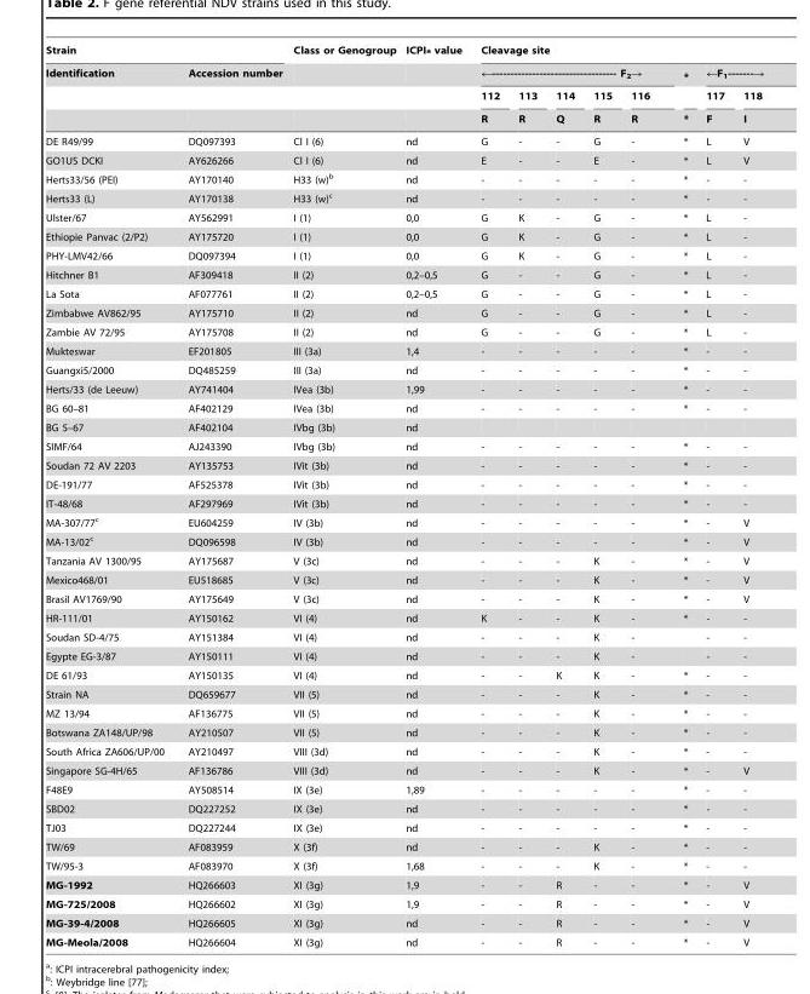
<table><thead><tr><td colspan="2">Strain</td><td rowspan="4">Class or Genogroup</td><td rowspan="4">ICPI<sup>a</sup> value</td><td colspan="8">Cleavage site</td></tr><tr><td rowspan="3">Identification</td><td rowspan="3">Accession number</td><td colspan="5">←---------------------------------- F<sub>2</sub>→</td><td rowspan="3">* *</td><td colspan="2">←F<sub>1</sub>-------→</td></tr><tr><td rowspan="2">112 R</td><td rowspan="2">113 R</td><td rowspan="2">114 Q</td><td rowspan="2">115 R</td><td rowspan="2">116 R</td><td rowspan="2">117 F</td><td rowspan="2">118 I</td></tr><tr></tr></thead><tbody><tr><td>DE R49/99</td><td>DQ097393</td><td>Cl I (6)</td><td>nd</td><td>G</td><td>-</td><td>-</td><td>G</td><td>-</td><td>*</td><td>L</td><td>V</td></tr><tr><td>GO1US DCKI</td><td>AY626266</td><td>Cl I (6)</td><td>nd</td><td>E</td><td>-</td><td>-</td><td>E</td><td>-</td><td>*</td><td>L</td><td>V</td></tr><tr><td>Herts33/56 (PEI)</td><td>AY170140</td><td>H33 (w)<sup>b</sup></td><td>nd</td><td>-</td><td>-</td><td>-</td><td>-</td><td>-</td><td>*</td><td>-</td><td>-</td></tr><tr><td>Herts33 (L)</td><td>AY170138</td><td>H33 (w)<sup>c</sup></td><td>nd</td><td>-</td><td>-</td><td>-</td><td>-</td><td>-</td><td>*</td><td>-</td><td>-</td></tr><tr><td>Ulster/67</td><td>AY562991</td><td>I (1)</td><td>0,0</td><td>G</td><td>K</td><td>-</td><td>G</td><td>-</td><td>*</td><td>L</td><td>-</td></tr><tr><td>Ethiopie Panvac (2/P2)</td><td>AY175720</td><td>I (1)</td><td>0,0</td><td>G</td><td>K</td><td>-</td><td>G</td><td>-</td><td>*</td><td>L</td><td>-</td></tr><tr><td>PHY-LMV42/66</td><td>DQ097394</td><td>I (1)</td><td>0,0</td><td>G</td><td>K</td><td>-</td><td>G</td><td>-</td><td>*</td><td>L</td><td>-</td></tr><tr><td>Hitchner B1</td><td>AF309418</td><td>II (2)</td><td>0,2–0,5</td><td>G</td><td>-</td><td>-</td><td>G</td><td>-</td><td>*</td><td>L</td><td>-</td></tr><tr><td>La Sota</td><td>AF077761</td><td>II (2)</td><td>0,2–0,5</td><td>G</td><td>-</td><td>-</td><td>G</td><td>-</td><td>*</td><td>L</td><td>-</td></tr><tr><td>Zimbabwe AV862/95</td><td>AY175710</td><td>II (2)</td><td>nd</td><td>G</td><td>-</td><td>-</td><td>G</td><td>-</td><td>*</td><td>L</td><td>-</td></tr><tr><td>Zambie AV 72/95</td><td>AY175708</td><td>II (2)</td><td>nd</td><td>G</td><td>-</td><td>-</td><td>G</td><td>-</td><td>*</td><td>L</td><td>-</td></tr><tr><td>Mukteswar</td><td>EF201805</td><td>III (3a)</td><td>1,4</td><td>-</td><td>-</td><td>-</td><td>-</td><td>-</td><td>*</td><td>-</td><td>-</td></tr><tr><td>Guangxi5/2000</td><td>DQ485259</td><td>III (3a)</td><td>nd</td><td>-</td><td>-</td><td>-</td><td>-</td><td>-</td><td>*</td><td>-</td><td>-</td></tr><tr><td>Herts/33 (de Leeuw)</td><td>AY741404</td><td>IVea (3b)</td><td>1,99</td><td>-</td><td>-</td><td>-</td><td>-</td><td>-</td><td>*</td><td>-</td><td>-</td></tr><tr><td>BG 60–81</td><td>AF402129</td><td>IVea (3b)</td><td>nd</td><td>-</td><td>-</td><td>-</td><td>-</td><td>-</td><td>*</td><td>-</td><td>-</td></tr><tr><td>BG 5–67</td><td>AF402104</td><td>IVbg (3b)</td><td>nd</td><td></td><td></td><td></td><td></td><td></td><td></td><td></td><td></td></tr><tr><td>SIMF/64</td><td>AJ243390</td><td>IVbg (3b)</td><td>nd</td><td>-</td><td>-</td><td>-</td><td>-</td><td>-</td><td>*</td><td>-</td><td>-</td></tr><tr><td>Soudan 72 AV 2203</td><td>AY135753</td><td>IVit (3b)</td><td>nd</td><td>-</td><td>-</td><td>-</td><td>-</td><td>-</td><td>*</td><td>-</td><td>-</td></tr><tr><td>DE-191/77</td><td>AF525378</td><td>IVit (3b)</td><td>nd</td><td>-</td><td>-</td><td>-</td><td>-</td><td>-</td><td>*</td><td>-</td><td>-</td></tr><tr><td>IT-48/68</td><td>AF297969</td><td>IVit (3b)</td><td>nd</td><td>-</td><td>-</td><td>-</td><td>-</td><td>-</td><td>*</td><td>-</td><td>-</td></tr><tr><td>MA-307/77<sup>c</sup></td><td>EU604259</td><td>IV (3b)</td><td>nd</td><td>-</td><td>-</td><td>-</td><td>-</td><td>-</td><td>*</td><td>-</td><td>V</td></tr><tr><td>MA-13/02<sup>c</sup></td><td>DQ096598</td><td>IV (3b)</td><td>nd</td><td>-</td><td>-</td><td>-</td><td>-</td><td>-</td><td>*</td><td>-</td><td>V</td></tr><tr><td>Tanzania AV 1300/95</td><td>AY175687</td><td>V (3c)</td><td>nd</td><td>-</td><td>-</td><td>-</td><td>K</td><td>-</td><td>*</td><td>-</td><td>V</td></tr><tr><td>Mexico468/01</td><td>EU518685</td><td>V (3c)</td><td>nd</td><td>-</td><td>-</td><td>-</td><td>K</td><td>-</td><td>*</td><td>-</td><td>V</td></tr><tr><td>Brasil AV1769/90</td><td>AY175649</td><td>V (3c)</td><td>nd</td><td>-</td><td>-</td><td>-</td><td>K</td><td>-</td><td>*</td><td>-</td><td>V</td></tr><tr><td>HR-111/01</td><td>AY150162</td><td>VI (4)</td><td>nd</td><td>K</td><td>-</td><td>-</td><td>K</td><td>-</td><td>*</td><td>-</td><td>-</td></tr><tr><td>Soudan SD-4/75</td><td>AY151384</td><td>VI (4)</td><td>nd</td><td>-</td><td>-</td><td>-</td><td>K</td><td>-</td><td></td><td>-</td><td>-</td></tr><tr><td>Egypte EG-3/87</td><td>AY150111</td><td>VI (4)</td><td>nd</td><td>-</td><td>-</td><td>-</td><td>K</td><td>-</td><td></td><td>-</td><td>-</td></tr><tr><td>DE 61/93</td><td>AY150135</td><td>VI (4)</td><td>nd</td><td>-</td><td>-</td><td>K</td><td>K</td><td>-</td><td>*</td><td>-</td><td>-</td></tr><tr><td>Strain NA</td><td>DQ659677</td><td>VII (5)</td><td>nd</td><td>-</td><td>-</td><td>-</td><td>K</td><td>-</td><td>*</td><td>-</td><td>-</td></tr><tr><td>MZ 13/94</td><td>AF136775</td><td>VII (5)</td><td>nd</td><td>-</td><td>-</td><td>-</td><td>K</td><td>-</td><td>*</td><td>-</td><td>-</td></tr><tr><td>Botswana ZA148/UP/98</td><td>AY210507</td><td>VII (5)</td><td>nd</td><td>-</td><td>-</td><td>-</td><td>K</td><td>-</td><td>*</td><td>-</td><td>-</td></tr><tr><td>South Africa ZA606/UP/00</td><td>AY210497</td><td>VIII (3d)</td><td>nd</td><td>-</td><td>-</td><td>-</td><td>K</td><td>-</td><td>*</td><td>-</td><td>-</td></tr><tr><td>Singapore SG-4H/65</td><td>AF136786</td><td>VIII (3d)</td><td>nd</td><td>-</td><td>-</td><td>-</td><td>K</td><td>-</td><td>*</td><td>-</td><td>V</td></tr><tr><td>F48E9</td><td>AY508514</td><td>IX (3e)</td><td>1,89</td><td>-</td><td>-</td><td>-</td><td>-</td><td>-</td><td>*</td><td>-</td><td>-</td></tr><tr><td>SBD02</td><td>DQ227252</td><td>IX (3e)</td><td>nd</td><td>-</td><td>-</td><td>-</td><td>-</td><td>-</td><td>*</td><td>-</td><td>-</td></tr><tr><td>TJ03</td><td>DQ227244</td><td>IX (3e)</td><td>nd</td><td>-</td><td>-</td><td>-</td><td>-</td><td>-</td><td>*</td><td>-</td><td>-</td></tr><tr><td>TW/69</td><td>AF083959</td><td>X (3f)</td><td>nd</td><td>-</td><td>-</td><td>-</td><td>K</td><td>-</td><td>*</td><td>-</td><td>-</td></tr><tr><td>TW/95-3</td><td>AF083970</td><td>X (3f)</td><td>1,68</td><td>-</td><td>-</td><td>-</td><td>K</td><td>-</td><td>*</td><td>-</td><td>-</td></tr><tr><td>MG-1992</td><td>HQ266603</td><td>XI (3g)</td><td>1,9</td><td>-</td><td>-</td><td>R</td><td>-</td><td>-</td><td>*</td><td>-</td><td>V</td></tr><tr><td>MG-725/2008</td><td>HQ266602</td><td>XI (3g)</td><td>1,9</td><td>-</td><td>-</td><td>R</td><td>-</td><td>-</td><td>*</td><td>-</td><td>V</td></tr><tr><td>MG-39-4/2008</td><td>HQ266605</td><td>XI (3g)</td><td>nd</td><td>-</td><td>-</td><td>R</td><td>-</td><td>-</td><td>*</td><td>-</td><td>V</td></tr><tr><td>MG-Meola/2008</td><td>HQ266604</td><td>XI (3g)</td><td>nd</td><td>-</td><td>-</td><td>R</td><td>-</td><td>-</td><td>*</td><td>-</td><td>V</td></tr></tbody></table>